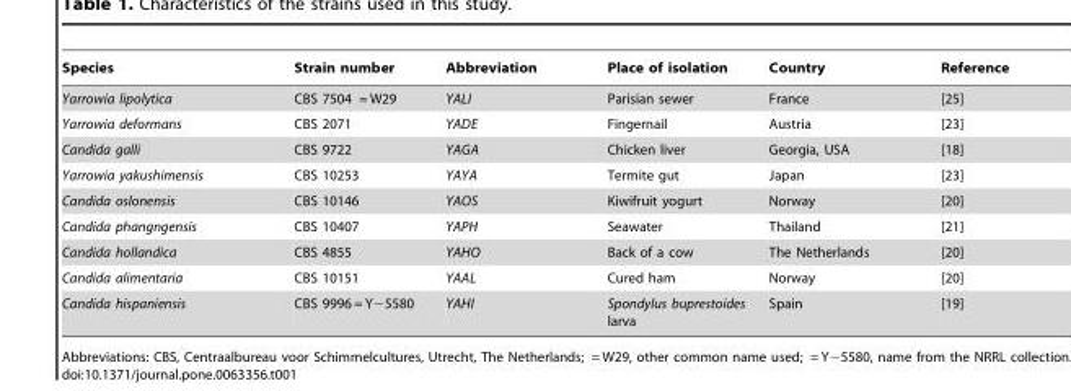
<table><thead><tr><td>Species</td><td>Strain number</td><td>Abbreviation</td><td>Place of isolation</td><td>Country</td><td>Reference</td></tr></thead><tbody><tr><td>Yarrowia lipolytica</td><td>CBS 7504 = W29</td><td>YALI</td><td>Parisian sewer</td><td>France</td><td>[25]</td></tr><tr><td>Yarrowia deformans</td><td>CBS 2071</td><td>YADE</td><td>Fingernail</td><td>Austria</td><td>[23]</td></tr><tr><td>Candida galli</td><td>CBS 9722</td><td>YAGA</td><td>Chicken liver</td><td>Georgia, USA</td><td>[18]</td></tr><tr><td>Yarrowia yakushimensis</td><td>CBS 10253</td><td>YAYA</td><td>Termite gut</td><td>Japan</td><td>[23]</td></tr><tr><td>Candida oslonensis</td><td>CBS 10146</td><td>YAOS</td><td>Kiwifruit yogurt</td><td>Norway</td><td>[20]</td></tr><tr><td>Candida phangngensis</td><td>CBS 10407</td><td>YAPH</td><td>Seawater</td><td>Thailand</td><td>[21]</td></tr><tr><td>Candida hollandica</td><td>CBS 4855</td><td>YAHO</td><td>Back of a cow</td><td>The Netherlands</td><td>[20]</td></tr><tr><td>Candida alimentaria</td><td>CBS 10151</td><td>YAAL</td><td>Cured ham</td><td>Norway</td><td>[20]</td></tr><tr><td>Candida hispaniensis</td><td>CBS 9996 = Y−5580</td><td>YAHI</td><td>Spondylus buprestoides larva</td><td>Spain</td><td>[19]</td></tr></tbody></table>